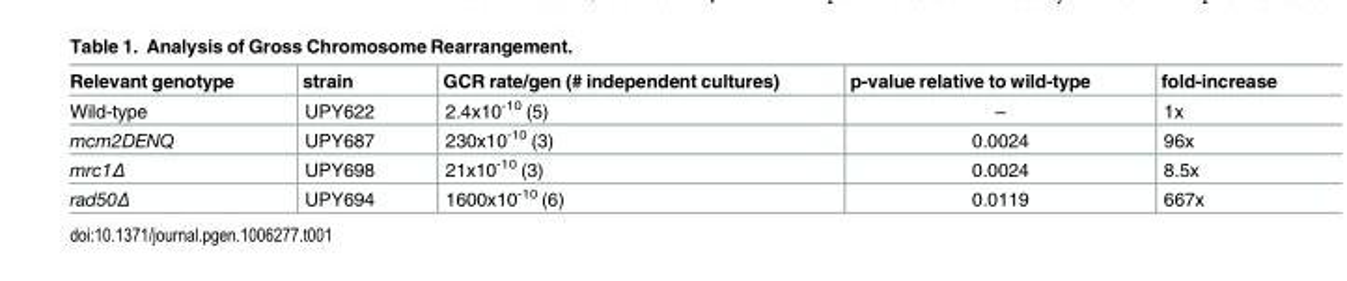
<table><thead><tr><td>Relevant genotype</td><td>strain</td><td>GCR rate/gen (# independent cultures)</td><td>p-value relative to wild-type</td><td>fold-increase</td></tr></thead><tbody><tr><td>Wild-type</td><td>UPY622</td><td>2.4x10<sup>-10</sup> (5)</td><td>–</td><td>1x</td></tr><tr><td>mcm2DENQ</td><td>UPY687</td><td>230x10<sup>-10</sup> (3)</td><td>0.0024</td><td>96x</td></tr><tr><td>mrc1Δ</td><td>UPY698</td><td>21x10<sup>-10</sup> (3)</td><td>0.0024</td><td>8.5x</td></tr><tr><td>rad50Δ</td><td>UPY694</td><td>1600x10<sup>-10</sup> (6)</td><td>0.0119</td><td>667x</td></tr></tbody></table>